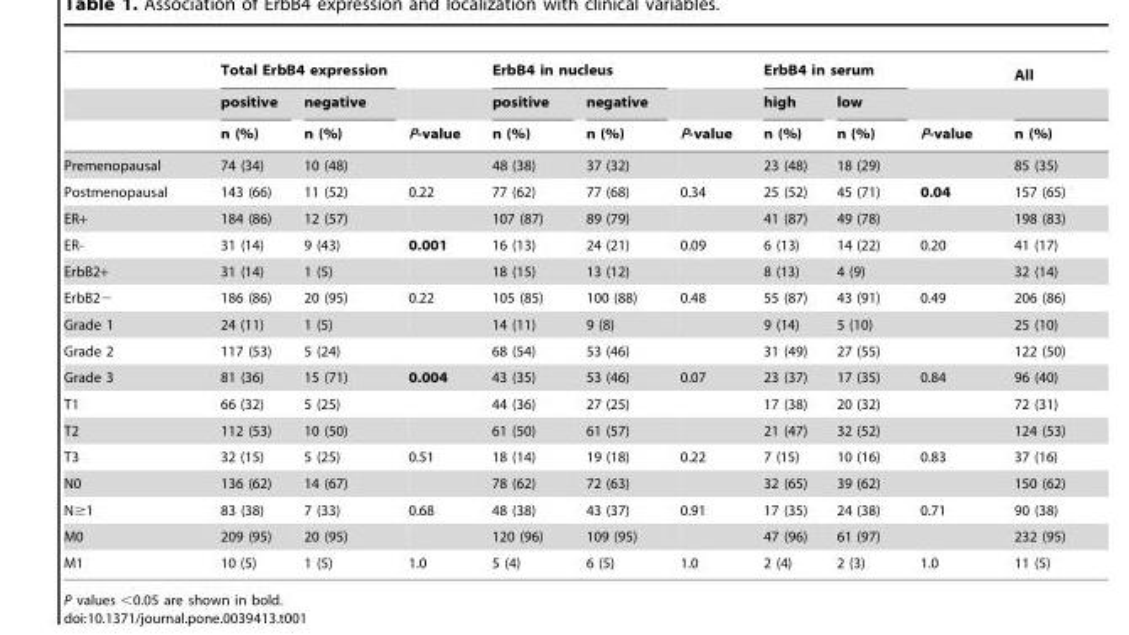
<table><thead><tr><td rowspan="3"></td><td colspan="2">Total ErbB4 expression</td><td rowspan="3">P-value</td><td colspan="2">ErbB4 in nucleus</td><td rowspan="3">P-value</td><td colspan="2">ErbB4 in serum</td><td rowspan="3">P-value</td><td rowspan="3">All n (%)</td></tr><tr><td rowspan="2">positive n (%)</td><td rowspan="2">negative n (%)</td><td rowspan="2">positive n (%)</td><td rowspan="2">negative n (%)</td><td rowspan="2">high n (%)</td><td rowspan="2">low n (%)</td></tr><tr></tr></thead><tbody><tr><td>Premenopausal</td><td>74 (34)</td><td>10 (48)</td><td></td><td>48 (38)</td><td>37 (32)</td><td></td><td>23 (48)</td><td>18 (29)</td><td></td><td>85 (35)</td></tr><tr><td>Postmenopausal</td><td>143 (66)</td><td>11 (52)</td><td>0.22</td><td>77 (62)</td><td>77 (68)</td><td>0.34</td><td>25 (52)</td><td>45 (71)</td><td>0.04</td><td>157 (65)</td></tr><tr><td>ER+</td><td>184 (86)</td><td>12 (57)</td><td></td><td>107 (87)</td><td>89 (79)</td><td></td><td>41 (87)</td><td>49 (78)</td><td></td><td>198 (83)</td></tr><tr><td>ER-</td><td>31 (14)</td><td>9 (43)</td><td>0.001</td><td>16 (13)</td><td>24 (21)</td><td>0.09</td><td>6 (13)</td><td>14 (22)</td><td>0.20</td><td>41 (17)</td></tr><tr><td>ErbB2+</td><td>31 (14)</td><td>1 (5)</td><td></td><td>18 (15)</td><td>13 (12)</td><td></td><td>8 (13)</td><td>4 (9)</td><td></td><td>32 (14)</td></tr><tr><td>ErbB2−</td><td>186 (86)</td><td>20 (95)</td><td>0.22</td><td>105 (85)</td><td>100 (88)</td><td>0.48</td><td>55 (87)</td><td>43 (91)</td><td>0.49</td><td>206 (86)</td></tr><tr><td>Grade 1</td><td>24 (11)</td><td>1 (5)</td><td></td><td>14 (11)</td><td>9 (8)</td><td></td><td>9 (14)</td><td>5 (10)</td><td></td><td>25 (10)</td></tr><tr><td>Grade 2</td><td>117 (53)</td><td>5 (24)</td><td></td><td>68 (54)</td><td>53 (46)</td><td></td><td>31 (49)</td><td>27 (55)</td><td></td><td>122 (50)</td></tr><tr><td>Grade 3</td><td>81 (36)</td><td>15 (71)</td><td>0.004</td><td>43 (35)</td><td>53 (46)</td><td>0.07</td><td>23 (37)</td><td>17 (35)</td><td>0.84</td><td>96 (40)</td></tr><tr><td>T1</td><td>66 (32)</td><td>5 (25)</td><td></td><td>44 (36)</td><td>27 (25)</td><td></td><td>17 (38)</td><td>20 (32)</td><td></td><td>72 (31)</td></tr><tr><td>T2</td><td>112 (53)</td><td>10 (50)</td><td></td><td>61 (50)</td><td>61 (57)</td><td></td><td>21 (47)</td><td>32 (52)</td><td></td><td>124 (53)</td></tr><tr><td>T3</td><td>32 (15)</td><td>5 (25)</td><td>0.51</td><td>18 (14)</td><td>19 (18)</td><td>0.22</td><td>7 (15)</td><td>10 (16)</td><td>0.83</td><td>37 (16)</td></tr><tr><td>N0</td><td>136 (62)</td><td>14 (67)</td><td></td><td>78 (62)</td><td>72 (63)</td><td></td><td>32 (65)</td><td>39 (62)</td><td></td><td>150 (62)</td></tr><tr><td>N≥1</td><td>83 (38)</td><td>7 (33)</td><td>0.68</td><td>48 (38)</td><td>43 (37)</td><td>0.91</td><td>17 (35)</td><td>24 (38)</td><td>0.71</td><td>90 (38)</td></tr><tr><td>M0</td><td>209 (95)</td><td>20 (95)</td><td></td><td>120 (96)</td><td>109 (95)</td><td></td><td>47 (96)</td><td>61 (97)</td><td></td><td>232 (95)</td></tr><tr><td>M1</td><td>10 (5)</td><td>1 (5)</td><td>1.0</td><td>5 (4)</td><td>6 (5)</td><td>1.0</td><td>2 (4)</td><td>2 (3)</td><td>1.0</td><td>11 (5)</td></tr></tbody></table>